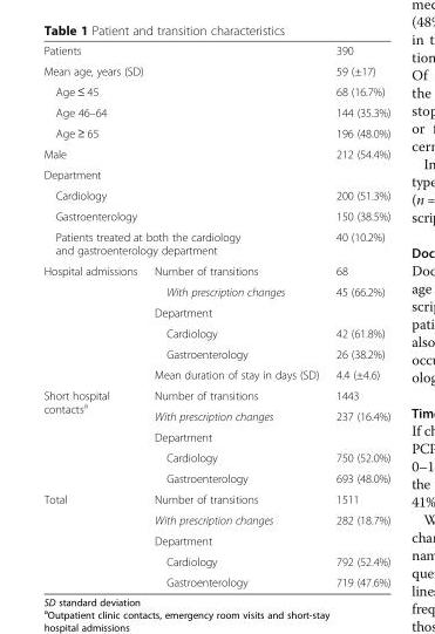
<table><tbody><tr><td colspan="2">Patients</td><td>390</td></tr><tr><td colspan="2">Mean age, years (SD)</td><td>59 (±17)</td></tr><tr><td colspan="2">Age ≤ 45</td><td>68 (16.7%)</td></tr><tr><td colspan="2">Age 46–64</td><td>144 (35.3%)</td></tr><tr><td colspan="2">Age ≥ 65</td><td>196 (48.0%)</td></tr><tr><td colspan="2">Male</td><td>212 (54.4%)</td></tr><tr><td colspan="3">Department</td></tr><tr><td colspan="2">Cardiology</td><td>200 (51.3%)</td></tr><tr><td colspan="2">Gastroenterology</td><td>150 (38.5%)</td></tr><tr><td colspan="2">Patients treated at both the cardiology and gastroenterology department</td><td>40 (10.2%)</td></tr><tr><td rowspan="6">Hospital admissions</td><td>Number of transitions</td><td>68</td></tr><tr><td>With prescription changes</td><td>45 (66.2%)</td></tr><tr><td colspan="2">Department</td></tr><tr><td>Cardiology</td><td>42 (61.8%)</td></tr><tr><td>Gastroenterology</td><td>26 (38.2%)</td></tr><tr><td>Mean duration of stay in days (SD)</td><td>4.4 (±4.6)</td></tr><tr><td rowspan="5">Short hospital contacts<sup>a</sup></td><td>Number of transitions</td><td>1443</td></tr><tr><td>With prescription changes</td><td>237 (16.4%)</td></tr><tr><td colspan="2">Department</td></tr><tr><td>Cardiology</td><td>750 (52.0%)</td></tr><tr><td>Gastroenterology</td><td>693 (48.0%)</td></tr><tr><td rowspan="5">Total</td><td>Number of transitions</td><td>1511</td></tr><tr><td>With prescription changes</td><td>282 (18.7%)</td></tr><tr><td colspan="2">Department</td></tr><tr><td>Cardiology</td><td>792 (52.4%)</td></tr><tr><td>Gastroenterology</td><td>719 (47.6%)</td></tr></tbody></table>